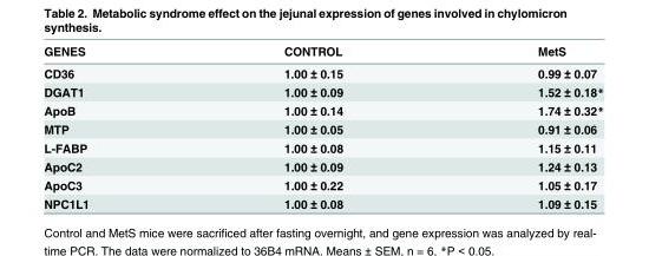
<table><thead><tr><td>GENES</td><td>CONTROL</td><td>MetS</td></tr></thead><tbody><tr><td>CD36</td><td>1.00 ± 0.15</td><td>0.99 ± 0.07</td></tr><tr><td>DGAT1</td><td>1.00 ± 0.09</td><td>1.52 ± 0.18*</td></tr><tr><td>ApoB</td><td>1.00 ± 0.14</td><td>1.74 ± 0.32*</td></tr><tr><td>MTP</td><td>1.00 ± 0.05</td><td>0.91 ± 0.06</td></tr><tr><td>L-FABP</td><td>1.00 ± 0.08</td><td>1.15 ± 0.11</td></tr><tr><td>ApoC2</td><td>1.00 ± 0.09</td><td>1.24 ± 0.13</td></tr><tr><td>ApoC3</td><td>1.00 ± 0.22</td><td>1.05 ± 0.17</td></tr><tr><td>NPC1L1</td><td>1.00 ± 0.08</td><td>1.09 ± 0.15</td></tr></tbody></table>